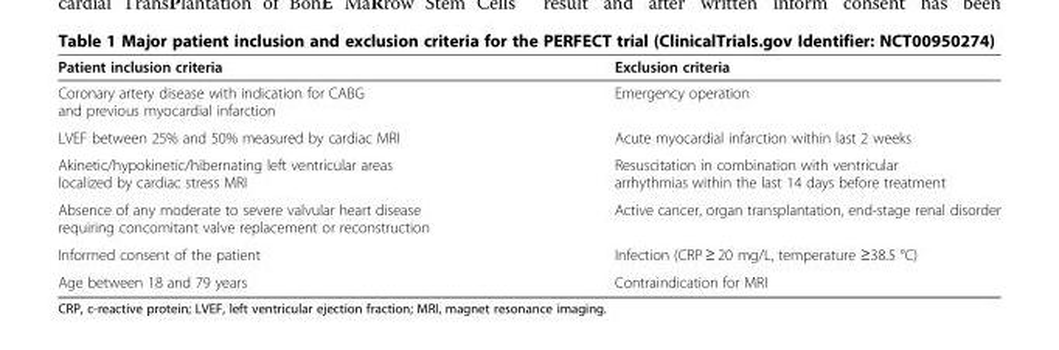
<table><thead><tr><td>Patient inclusion criteria</td><td>Exclusion criteria</td></tr></thead><tbody><tr><td>Coronary artery disease with indication for CABG and previous myocardial infarction</td><td>Emergency operation</td></tr><tr><td>LVEF between 25% and 50% measured by cardiac MRI</td><td>Acute myocardial infarction within last 2 weeks</td></tr><tr><td>Akinetic/hypokinetic/hibernating left ventricular areas localized by cardiac stress MRI</td><td>Resuscitation in combination with ventricular arrhythmias within the last 14 days before treatment</td></tr><tr><td>Absence of any moderate to severe valvular heart disease requiring concomitant valve replacement or reconstruction</td><td>Active cancer, organ transplantation, end-stage renal disorder</td></tr><tr><td>Informed consent of the patient</td><td>Infection (CRP ≥ 20 mg/L, temperature ≥38.5 °C)</td></tr><tr><td>Age between 18 and 79 years</td><td>Contraindication for MRI</td></tr></tbody></table>